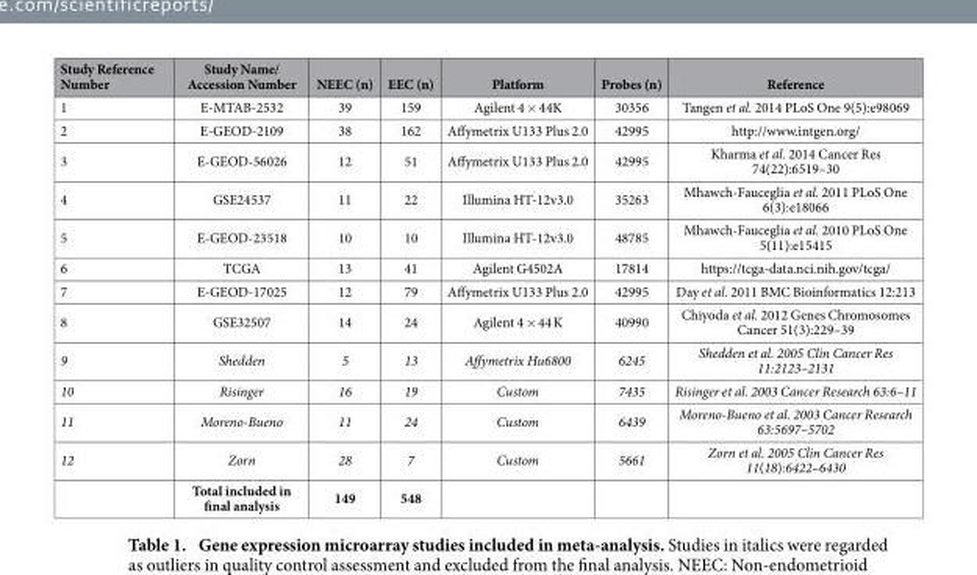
<table><thead><tr><td>Study Reference Number</td><td>Study Name/ Accession Number</td><td>NEEC (n)</td><td>EEC (n)</td><td>Platform</td><td>Probes (n)</td><td>Reference</td></tr></thead><tbody><tr><td>1</td><td>E-MTAB-2532</td><td>39</td><td>159</td><td>Agilent 4 × 44K</td><td>30356</td><td>Tangen et al. 2014 PLoS One 9(5):e98069</td></tr><tr><td>2</td><td>E-GEOD-2109</td><td>38</td><td>162</td><td>Affymetrix U133 Plus 2.0</td><td>42995</td><td>http://www.intgen.org/</td></tr><tr><td>3</td><td>E-GEOD-56026</td><td>12</td><td>51</td><td>Affymetrix U133 Plus 2.0</td><td>42995</td><td>Kharma et al. 2014 Cancer Res 74(22):6519–30</td></tr><tr><td>4</td><td>GSE24537</td><td>11</td><td>22</td><td>Illumina HT-12v3.0</td><td>35263</td><td>Mhawch-Fauceglia et al. 2011 PLoS One 6(3):e18066</td></tr><tr><td>5</td><td>E-GEOD-23518</td><td>10</td><td>10</td><td>Illumina HT-12v3.0</td><td>48785</td><td>Mhawch-Fauceglia et al. 2010 PLoS One 5(11):e15415</td></tr><tr><td>6</td><td>TCGA</td><td>13</td><td>41</td><td>Agilent G4502A</td><td>17814</td><td>https://tcga-data.nci.nih.gov/tcga/</td></tr><tr><td>7</td><td>E-GEOD-17025</td><td>12</td><td>79</td><td>Affymetrix U133 Plus 2.0</td><td>42995</td><td>Day et al. 2011 BMC Bioinformatics 12:213</td></tr><tr><td>8</td><td>GSE32507</td><td>14</td><td>24</td><td>Agilent 4 × 44 K</td><td>40990</td><td>Chiyoda et al. 2012 Genes Chromosomes Cancer 51(3):229–39</td></tr><tr><td>9</td><td>Shedden</td><td>5</td><td>13</td><td>Affymetrix Hu6800</td><td>6245</td><td>Shedden et al. 2005 Clin Cancer Res 11:2123–2131</td></tr><tr><td>10</td><td>Risinger</td><td>16</td><td>19</td><td>Custom</td><td>7435</td><td>Risinger et al. 2003 Cancer Research 63:6–11</td></tr><tr><td>11</td><td>Moreno-Bueno</td><td>11</td><td>24</td><td>Custom</td><td>6439</td><td>Moreno-Bueno et al. 2003 Cancer Research 63:5697–5702</td></tr><tr><td rowspan="2">12</td><td>Zorn</td><td>28</td><td>7</td><td>Custom</td><td>5661</td><td>Zorn et al. 2005 Clin Cancer Res 11(18):6422–6430</td></tr><tr><td>Total included in final analysis</td><td>149</td><td>548</td><td></td><td></td><td></td></tr></tbody></table>